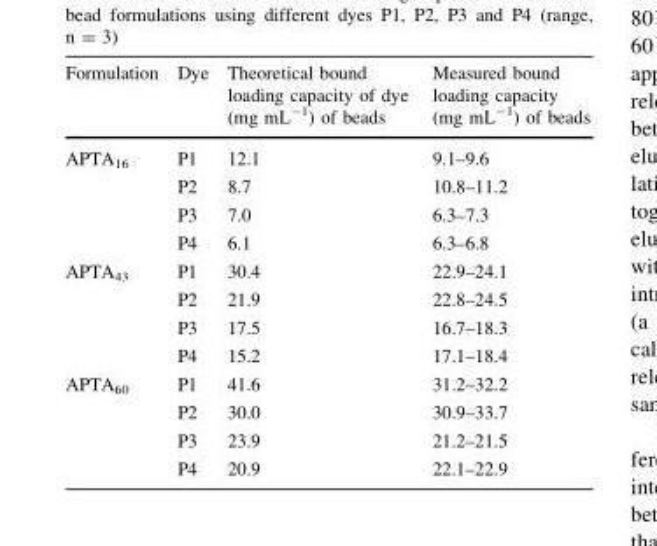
<table><thead><tr><td>Formulation</td><td>Dye</td><td>Theoretical bound loading capacity of dye (mg mL<sup>-1</sup>) of beads</td><td>Measured bound loading capacity (mg mL<sup>-1</sup>) of beads</td></tr></thead><tbody><tr><td rowspan="4">APTA<sub>16</sub></td><td>P1</td><td>12.1</td><td>9.1–9.6</td></tr><tr><td>P2</td><td>8.7</td><td>10.8–11.2</td></tr><tr><td>P3</td><td>7.0</td><td>6.3–7.3</td></tr><tr><td>P4</td><td>6.1</td><td>6.3–6.8</td></tr><tr><td rowspan="4">APTA<sub>43</sub></td><td>P1</td><td>30.4</td><td>22.9–24.1</td></tr><tr><td>P2</td><td>21.9</td><td>22.8–24.5</td></tr><tr><td>P3</td><td>17.5</td><td>16.7–18.3</td></tr><tr><td>P4</td><td>15.2</td><td>17.1–18.4</td></tr><tr><td rowspan="4">APTA<sub>60</sub></td><td>P1</td><td>41.6</td><td>31.2–32.2</td></tr><tr><td>P2</td><td>30.0</td><td>30.9–33.7</td></tr><tr><td>P3</td><td>23.9</td><td>21.2–21.5</td></tr><tr><td>P4</td><td>20.9</td><td>22.1–22.9</td></tr></tbody></table>